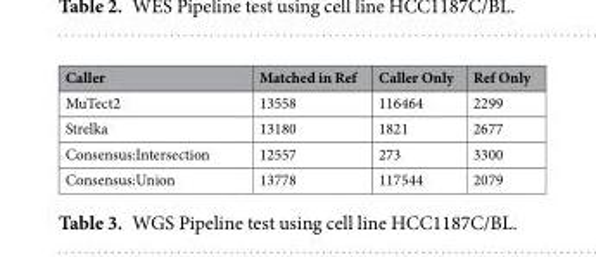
<table><thead><tr><td>Caller</td><td>Matched in Ref</td><td>Caller Only</td><td>Ref Only</td></tr></thead><tbody><tr><td>MuTect2</td><td>13558</td><td>116464</td><td>2299</td></tr><tr><td>Strelka</td><td>13180</td><td>1821</td><td>2677</td></tr><tr><td>Consensus:Intersection</td><td>12557</td><td>273</td><td>3300</td></tr><tr><td>Consensus:Union</td><td>13778</td><td>117544</td><td>2079</td></tr></tbody></table>